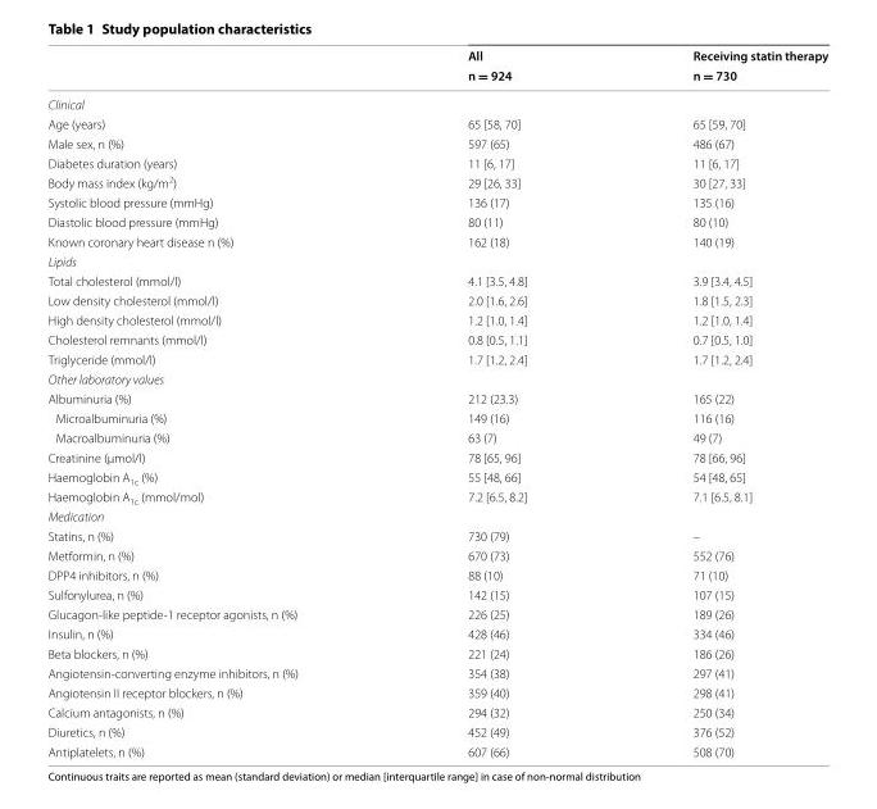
<table><thead><tr><td rowspan="2"></td><td rowspan="2">All n = 924</td><td rowspan="2">Receiving statin therapy n = 730</td></tr><tr></tr></thead><tbody><tr><td colspan="3">Clinical</td></tr><tr><td>Age (years)</td><td>65 [58, 70]</td><td>65 [59, 70]</td></tr><tr><td>Male sex, n (%)</td><td>597 (65)</td><td>486 (67)</td></tr><tr><td>Diabetes duration (years)</td><td>11 [6, 17]</td><td>11 [6, 17]</td></tr><tr><td>Body mass index (kg/m<sup>2</sup>)</td><td>29 [26, 33]</td><td>30 [27, 33]</td></tr><tr><td>Systolic blood pressure (mmHg)</td><td>136 (17)</td><td>135 (16)</td></tr><tr><td>Diastolic blood pressure (mmHg)</td><td>80 (11)</td><td>80 (10)</td></tr><tr><td>Known coronary heart disease n (%)</td><td>162 (18)</td><td>140 (19)</td></tr><tr><td colspan="3">Lipids</td></tr><tr><td>Total cholesterol (mmol/l)</td><td>4.1 [3.5, 4.8]</td><td>3.9 [3.4, 4.5]</td></tr><tr><td>Low density cholesterol (mmol/l)</td><td>2.0 [1.6, 2.6]</td><td>1.8 [1.5, 2.3]</td></tr><tr><td>High density cholesterol (mmol/l)</td><td>1.2 [1.0, 1.4]</td><td>1.2 [1.0, 1.4]</td></tr><tr><td>Cholesterol remnants (mmol/l)</td><td>0.8 [0.5, 1.1]</td><td>0.7 [0.5, 1.0]</td></tr><tr><td>Triglyceride (mmol/l)</td><td>1.7 [1.2, 2.4]</td><td>1.7 [1.2, 2.4]</td></tr><tr><td colspan="3">Other laboratory values</td></tr><tr><td>Albuminuria (%)</td><td>212 (23.3)</td><td>165 (22)</td></tr><tr><td>Microalbuminuria (%)</td><td>149 (16)</td><td>116 (16)</td></tr><tr><td>Macroalbuminuria (%)</td><td>63 (7)</td><td>49 (7)</td></tr><tr><td>Creatinine (μmol/l)</td><td>78 [65, 96]</td><td>78 [66, 96]</td></tr><tr><td>Haemoglobin A<sub>1c</sub> (%)</td><td>55 [48, 66]</td><td>54 [48, 65]</td></tr><tr><td>Haemoglobin A<sub>1c</sub> (mmol/mol)</td><td>7.2 [6.5, 8.2]</td><td>7.1 [6.5, 8.1]</td></tr><tr><td colspan="3">Medication</td></tr><tr><td>Statins, n (%)</td><td>730 (79)</td><td>–</td></tr><tr><td>Metformin, n (%)</td><td>670 (73)</td><td>552 (76)</td></tr><tr><td>DPP4 inhibitors, n (%)</td><td>88 (10)</td><td>71 (10)</td></tr><tr><td>Sulfonylurea, n (%)</td><td>142 (15)</td><td>107 (15)</td></tr><tr><td>Glucagon‑like peptide‑1 receptor agonists, n (%)</td><td>226 (25)</td><td>189 (26)</td></tr><tr><td>Insulin, n (%)</td><td>428 (46)</td><td>334 (46)</td></tr><tr><td>Beta blockers, n (%)</td><td>221 (24)</td><td>186 (26)</td></tr><tr><td>Angiotensin‑converting enzyme inhibitors, n (%)</td><td>354 (38)</td><td>297 (41)</td></tr><tr><td>Angiotensin II receptor blockers, n (%)</td><td>359 (40)</td><td>298 (41)</td></tr><tr><td>Calcium antagonists, n (%)</td><td>294 (32)</td><td>250 (34)</td></tr><tr><td>Diuretics, n (%)</td><td>452 (49)</td><td>376 (52)</td></tr><tr><td>Antiplatelets, n (%)</td><td>607 (66)</td><td>508 (70)</td></tr></tbody></table>